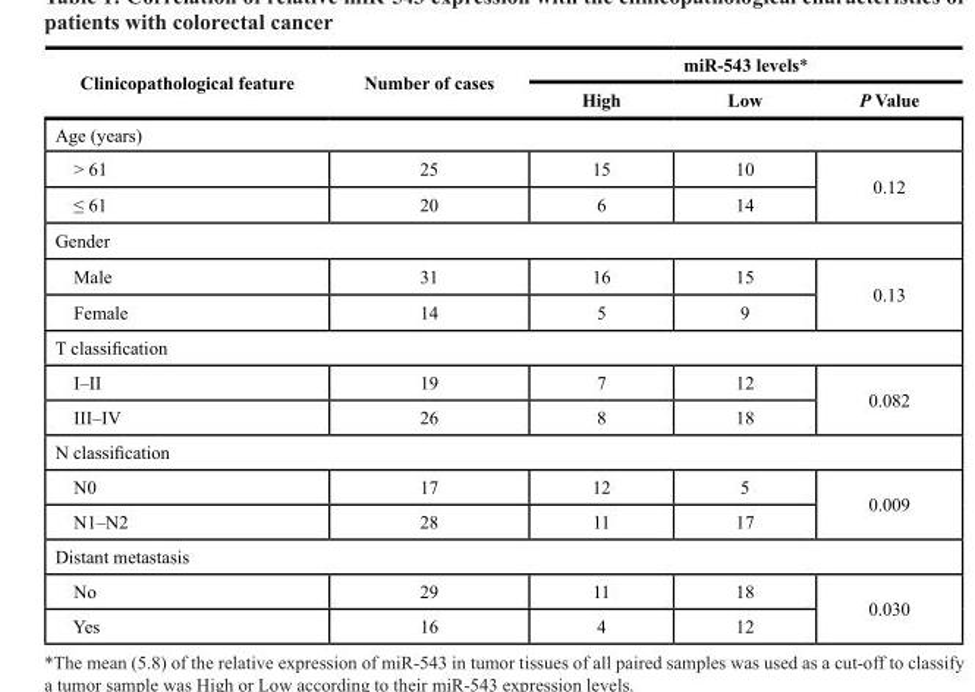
<table><thead><tr><td rowspan="2">Clinicopathological feature</td><td rowspan="2">Number of cases</td><td colspan="3">miR-543 levels*</td></tr><tr><td>High</td><td>Low</td><td>P Value</td></tr></thead><tbody><tr><td colspan="5">Age (years)</td></tr><tr><td>&gt; 61</td><td>25</td><td>15</td><td>10</td><td rowspan="2">0.12</td></tr><tr><td>≤ 61</td><td>20</td><td>6</td><td>14</td></tr><tr><td colspan="5">Gender</td></tr><tr><td>Male</td><td>31</td><td>16</td><td>15</td><td rowspan="2">0.13</td></tr><tr><td>Female</td><td>14</td><td>5</td><td>9</td></tr><tr><td colspan="5">T classification</td></tr><tr><td>I–II</td><td>19</td><td>7</td><td>12</td><td rowspan="2">0.082</td></tr><tr><td>III–IV</td><td>26</td><td>8</td><td>18</td></tr><tr><td colspan="5">N classification</td></tr><tr><td>N0</td><td>17</td><td>12</td><td>5</td><td rowspan="2">0.009</td></tr><tr><td>N1–N2</td><td>28</td><td>11</td><td>17</td></tr><tr><td colspan="5">Distant metastasis</td></tr><tr><td>No</td><td>29</td><td>11</td><td>18</td><td rowspan="2">0.030</td></tr><tr><td>Yes</td><td>16</td><td>4</td><td>12</td></tr></tbody></table>